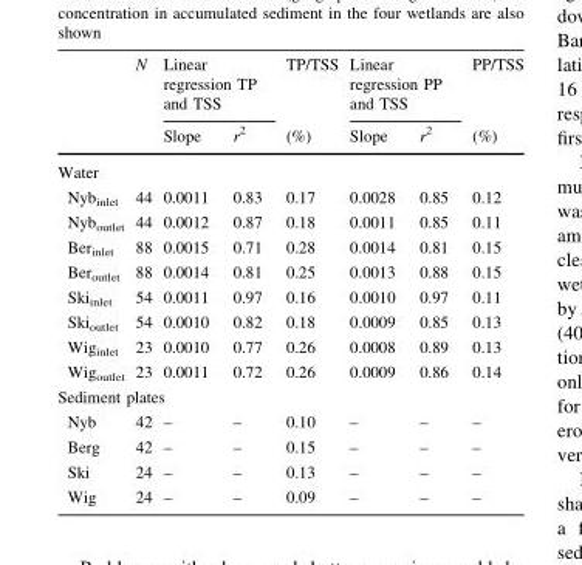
<table><thead><tr><td rowspan="2"></td><td rowspan="2">N</td><td colspan="2">Linear regression TP and TSS</td><td rowspan="2">TP/TSS (%)</td><td colspan="2">Linear regression PP and TSS</td><td rowspan="2">PP/TSS (%)</td></tr><tr><td>Slope</td><td>r<sup>2</sup></td><td>Slope</td><td>r<sup>2</sup></td></tr></thead><tbody><tr><td colspan="8">Water</td></tr><tr><td>Nyb<sub>inlet</sub></td><td>44</td><td>0.0011</td><td>0.83</td><td>0.17</td><td>0.0028</td><td>0.85</td><td>0.12</td></tr><tr><td>Nyb<sub>outlet</sub></td><td>44</td><td>0.0012</td><td>0.87</td><td>0.18</td><td>0.0011</td><td>0.85</td><td>0.11</td></tr><tr><td>Ber<sub>inlet</sub></td><td>88</td><td>0.0015</td><td>0.71</td><td>0.28</td><td>0.0014</td><td>0.81</td><td>0.15</td></tr><tr><td>Ber<sub>outlet</sub></td><td>88</td><td>0.0014</td><td>0.81</td><td>0.25</td><td>0.0013</td><td>0.88</td><td>0.15</td></tr><tr><td>Ski<sub>inlet</sub></td><td>54</td><td>0.0011</td><td>0.97</td><td>0.16</td><td>0.0010</td><td>0.97</td><td>0.11</td></tr><tr><td>Ski<sub>outlet</sub></td><td>54</td><td>0.0010</td><td>0.82</td><td>0.18</td><td>0.0009</td><td>0.85</td><td>0.13</td></tr><tr><td>Wig<sub>inlet</sub></td><td>23</td><td>0.0010</td><td>0.77</td><td>0.26</td><td>0.0008</td><td>0.89</td><td>0.13</td></tr><tr><td>Wig<sub>outlet</sub></td><td>23</td><td>0.0011</td><td>0.72</td><td>0.26</td><td>0.0009</td><td>0.86</td><td>0.14</td></tr><tr><td colspan="8">Sediment plates</td></tr><tr><td>Nyb</td><td>42</td><td>–</td><td>–</td><td>0.10</td><td>–</td><td>–</td><td>–</td></tr><tr><td>Berg</td><td>42</td><td>–</td><td>–</td><td>0.15</td><td>–</td><td>–</td><td>–</td></tr><tr><td>Ski</td><td>24</td><td>–</td><td>–</td><td>0.13</td><td>–</td><td>–</td><td>–</td></tr><tr><td>Wig</td><td>24</td><td>–</td><td>–</td><td>0.09</td><td>–</td><td>–</td><td>–</td></tr></tbody></table>